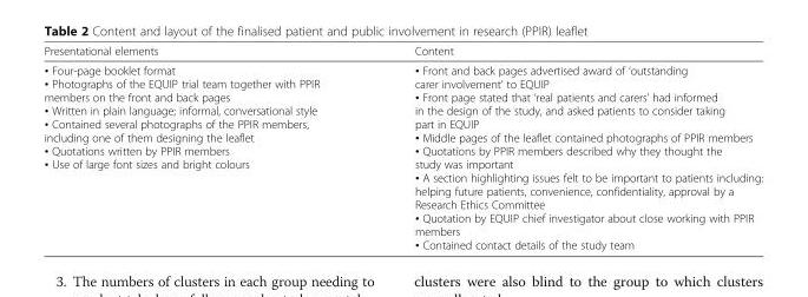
<table><thead><tr><td>Presentational elements</td><td>Content</td></tr></thead><tbody><tr><td>• Four-page booklet format • Photographs of the EQUIP trial team together with PPIR members on the front and back pages • Written in plain language; informal, conversational style • Contained several photographs of the PPIR members, including one of them designing the leaflet • Quotations written by PPIR members • Use of large font sizes and bright colours</td><td>• Front and back pages advertised award of ‘outstanding carer involvement’ to EQUIP • Front page stated that ‘real patients and carers’ had informed in the design of the study, and asked patients to consider taking part in EQUIP • Middle pages of the leaflet contained photographs of PPIR members • Quotations by PPIR members described why they thought the study was important • A section highlighting issues felt to be important to patients including: helping future patients, convenience, confidentiality, approval by a Research Ethics Committee • Quotation by EQUIP chief investigator about close working with PPIR members • Contained contact details of the study team</td></tr></tbody></table>